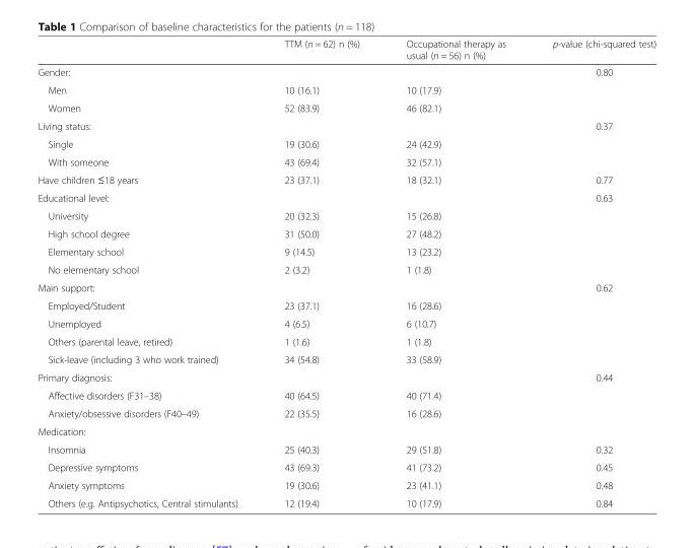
<table><thead><tr><td></td><td>TTM (n = 62) n (%)</td><td>Occupational therapy as usual (n = 56) n (%)</td><td>p-value (chi-squared test)</td></tr></thead><tbody><tr><td>Gender:</td><td></td><td></td><td>0.80</td></tr><tr><td>Men</td><td>10 (16.1)</td><td>10 (17.9)</td><td></td></tr><tr><td>Women</td><td>52 (83.9)</td><td>46 (82.1)</td><td></td></tr><tr><td>Living status:</td><td></td><td></td><td>0.37</td></tr><tr><td>Single</td><td>19 (30.6)</td><td>24 (42.9)</td><td></td></tr><tr><td>With someone</td><td>43 (69.4)</td><td>32 (57.1)</td><td></td></tr><tr><td>Have children ≤18 years</td><td>23 (37.1)</td><td>18 (32.1)</td><td>0.77</td></tr><tr><td>Educational level:</td><td></td><td></td><td>0.63</td></tr><tr><td>University</td><td>20 (32.3)</td><td>15 (26.8)</td><td></td></tr><tr><td>High school degree</td><td>31 (50.0)</td><td>27 (48.2)</td><td></td></tr><tr><td>Elementary school</td><td>9 (14.5)</td><td>13 (23.2)</td><td></td></tr><tr><td>No elementary school</td><td>2 (3.2)</td><td>1 (1.8)</td><td></td></tr><tr><td colspan="3">Main support:</td><td rowspan="5">0.62</td></tr><tr><td>Employed/Student</td><td>23 (37.1)</td><td>16 (28.6)</td></tr><tr><td>Unemployed</td><td>4 (6.5)</td><td>6 (10.7)</td></tr><tr><td>Others (parental leave, retired)</td><td>1 (1.6)</td><td>1 (1.8)</td></tr><tr><td>Sick-leave (including 3 who work trained)</td><td>34 (54.8)</td><td>33 (58.9)</td></tr><tr><td colspan="3">Primary diagnosis:</td><td rowspan="3">0.44</td></tr><tr><td>Affective disorders (F31–38)</td><td>40 (64.5)</td><td>40 (71.4)</td></tr><tr><td>Anxiety/obsessive disorders (F40–49)</td><td>22 (35.5)</td><td>16 (28.6)</td></tr><tr><td colspan="4">Medication:</td></tr><tr><td>Insomnia</td><td>25 (40.3)</td><td>29 (51.8)</td><td>0.32</td></tr><tr><td>Depressive symptoms</td><td>43 (69.3)</td><td>41 (73.2)</td><td>0.45</td></tr><tr><td>Anxiety symptoms</td><td>19 (30.6)</td><td>23 (41.1)</td><td>0.48</td></tr><tr><td>Others (e.g. Antipsychotics, Central stimulants)</td><td>12 (19.4)</td><td>10 (17.9)</td><td>0.84</td></tr></tbody></table>